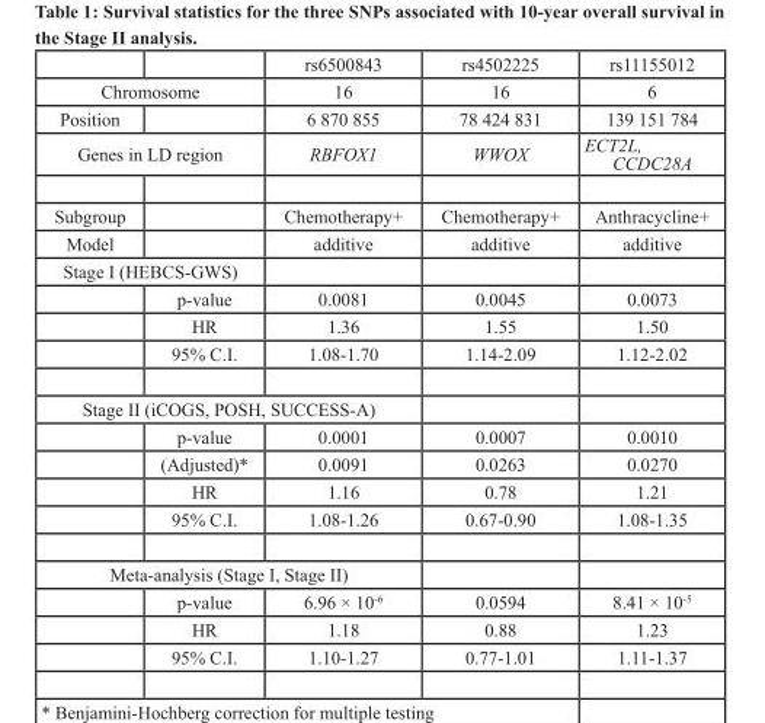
<table><thead><tr><td></td><td></td><td>rs6500843</td><td>rs4502225</td><td>rs11155012</td></tr></thead><tbody><tr><td colspan="2">Chromosome</td><td>16</td><td>16</td><td>6</td></tr><tr><td>Position</td><td></td><td>6 870 855</td><td>78 424 831</td><td>139 151 784</td></tr><tr><td colspan="2">Genes in LD region</td><td>RBFOX1</td><td>WWOX</td><td>ECT2L, CCDC28A</td></tr><tr><td>Subgroup</td><td></td><td>Chemotherapy+</td><td>Chemotherapy+</td><td>Anthracycline+</td></tr><tr><td>Model</td><td></td><td>additive</td><td>additive</td><td>additive</td></tr><tr><td colspan="5">Stage I (HEBCS-GWS)</td></tr><tr><td></td><td>p-value</td><td>0.0081</td><td>0.0045</td><td>0.0073</td></tr><tr><td></td><td>HR</td><td>1.36</td><td>1.55</td><td>1.50</td></tr><tr><td></td><td>95% C.I.</td><td>1.08-1.70</td><td>1.14-2.09</td><td>1.12-2.02</td></tr><tr><td colspan="5">Stage II (iCOGS, POSH, SUCCESS-A)</td></tr><tr><td></td><td>p-value</td><td>0.0001</td><td>0.0007</td><td>0.0010</td></tr><tr><td></td><td>(Adjusted)*</td><td>0.0091</td><td>0.0263</td><td>0.0270</td></tr><tr><td></td><td>HR</td><td>1.16</td><td>0.78</td><td>1.21</td></tr><tr><td></td><td>95% C.I.</td><td>1.08-1.26</td><td>0.67-0.90</td><td>1.08-1.35</td></tr><tr><td colspan="5">Meta-analysis (Stage I, Stage II)</td></tr><tr><td></td><td>p-value</td><td>6.96 × 10<sup>-6</sup></td><td>0.0594</td><td>8.41 × 10<sup>-5</sup></td></tr><tr><td></td><td>HR</td><td>1.18</td><td>0.88</td><td>1.23</td></tr><tr><td></td><td>95% C.I.</td><td>1.10-1.27</td><td>0.77-1.01</td><td>1.11-1.37</td></tr></tbody></table>